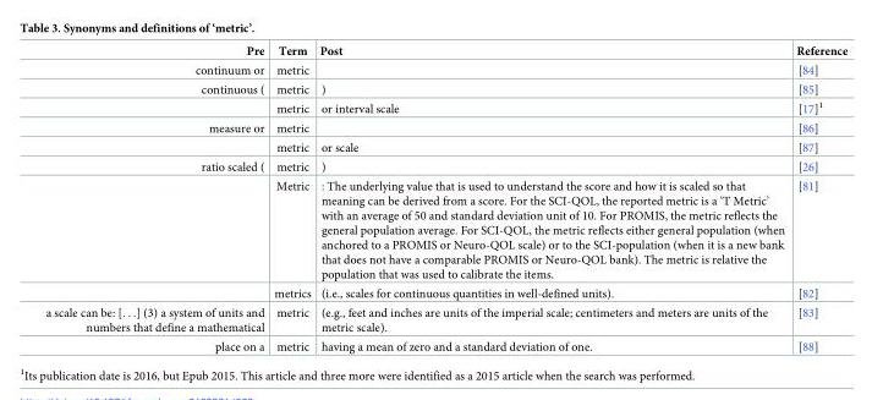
<table><thead><tr><td>Pre</td><td>Term</td><td>Post</td><td>Reference</td></tr></thead><tbody><tr><td>continuum or</td><td>metric</td><td></td><td>[84]</td></tr><tr><td rowspan="2">continuous (</td><td>metric</td><td>)</td><td>[85]</td></tr><tr><td>metric</td><td>or interval scale</td><td>[17]<sup>1</sup></td></tr><tr><td rowspan="2">measure or</td><td>metric</td><td></td><td>[86]</td></tr><tr><td>metric</td><td>or scale</td><td>[87]</td></tr><tr><td rowspan="3">ratio scaled (</td><td>metric</td><td>)</td><td>[26]</td></tr><tr><td>Metric</td><td>: The underlying value that is used to understand the score and how it is scaled so that meaning can be derived from a score. For the SCI-QOL, the reported metric is a ‘T Metric’ with an average of 50 and standard deviation unit of 10. For PROMIS, the metric reflects the general population average. For SCI-QOL, the metric reflects either general population (when anchored to a PROMIS or Neuro-QOL scale) or to the SCI-population (when it is a new bank that does not have a comparable PROMIS or Neuro-QOL bank). The metric is relative the population that was used to calibrate the items.</td><td>[81]</td></tr><tr><td>metrics</td><td>(i.e., scales for continuous quantities in well-defined units).</td><td>[82]</td></tr><tr><td>a scale can be: [. . .] (3) a system of units and numbers that define a mathematical</td><td>metric</td><td>(e.g., feet and inches are units of the imperial scale; centimeters and meters are units of the metric scale).</td><td>[83]</td></tr><tr><td>place on a</td><td>metric</td><td>having a mean of zero and a standard deviation of one.</td><td>[88]</td></tr></tbody></table>